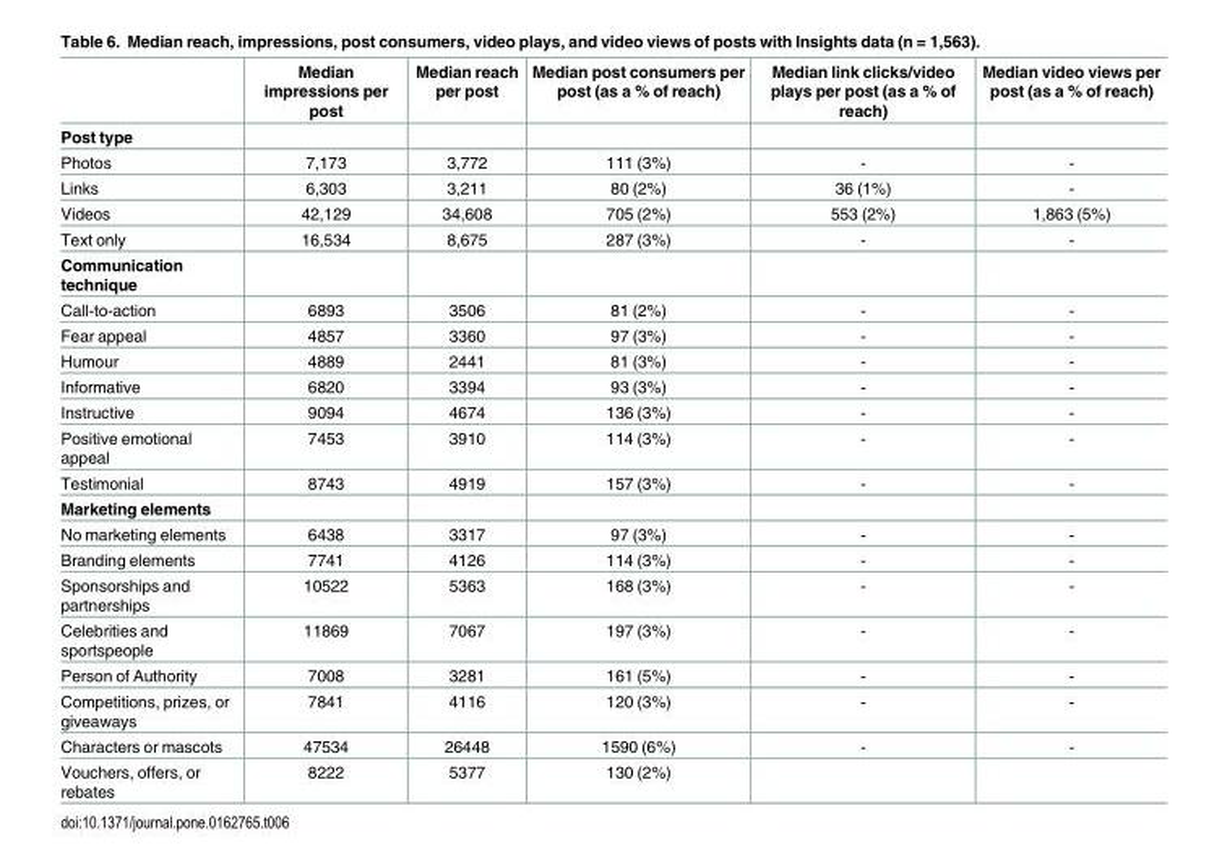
<table><thead><tr><td></td><td>Median impressions per post</td><td>Median reach per post</td><td>Median post consumers per post (as a % of reach)</td><td>Median link clicks/video plays per post (as a % of reach)</td><td>Median video views per post (as a % of reach)</td></tr></thead><tbody><tr><td colspan="6">Post type</td></tr><tr><td>Photos</td><td>7,173</td><td>3,772</td><td>111 (3%)</td><td>-</td><td>-</td></tr><tr><td>Links</td><td>6,303</td><td>3,211</td><td>80 (2%)</td><td>36 (1%)</td><td>-</td></tr><tr><td>Videos</td><td>42,129</td><td>34,608</td><td>705 (2%)</td><td>553 (2%)</td><td>1,863 (5%)</td></tr><tr><td>Text only</td><td>16,534</td><td>8,675</td><td>287 (3%)</td><td>-</td><td>-</td></tr><tr><td colspan="6">Communication technique</td></tr><tr><td>Call-to-action</td><td>6893</td><td>3506</td><td>81 (2%)</td><td>-</td><td>-</td></tr><tr><td>Fear appeal</td><td>4857</td><td>3360</td><td>97 (3%)</td><td>-</td><td>-</td></tr><tr><td>Humour</td><td>4889</td><td>2441</td><td>81 (3%)</td><td>-</td><td>-</td></tr><tr><td>Informative</td><td>6820</td><td>3394</td><td>93 (3%)</td><td>-</td><td>-</td></tr><tr><td>Instructive</td><td>9094</td><td>4674</td><td>136 (3%)</td><td>-</td><td>-</td></tr><tr><td>Positive emotional appeal</td><td>7453</td><td>3910</td><td>114 (3%)</td><td>-</td><td>-</td></tr><tr><td>Testimonial</td><td>8743</td><td>4919</td><td>157 (3%)</td><td>-</td><td>-</td></tr><tr><td colspan="6">Marketing elements</td></tr><tr><td>No marketing elements</td><td>6438</td><td>3317</td><td>97 (3%)</td><td>-</td><td>-</td></tr><tr><td>Branding elements</td><td>7741</td><td>4126</td><td>114 (3%)</td><td>-</td><td>-</td></tr><tr><td>Sponsorships and partnerships</td><td>10522</td><td>5363</td><td>168 (3%)</td><td>-</td><td>-</td></tr><tr><td>Celebrities and sportspeople</td><td>11869</td><td>7067</td><td>197 (3%)</td><td>-</td><td>-</td></tr><tr><td>Person of Authority</td><td>7008</td><td>3281</td><td>161 (5%)</td><td>-</td><td>-</td></tr><tr><td>Competitions, prizes, or giveaways</td><td>7841</td><td>4116</td><td>120 (3%)</td><td>-</td><td>-</td></tr><tr><td>Characters or mascots</td><td>47534</td><td>26448</td><td>1590 (6%)</td><td>-</td><td>-</td></tr><tr><td>Vouchers, offers, or rebates</td><td>8222</td><td>5377</td><td>130 (2%)</td><td></td><td></td></tr></tbody></table>